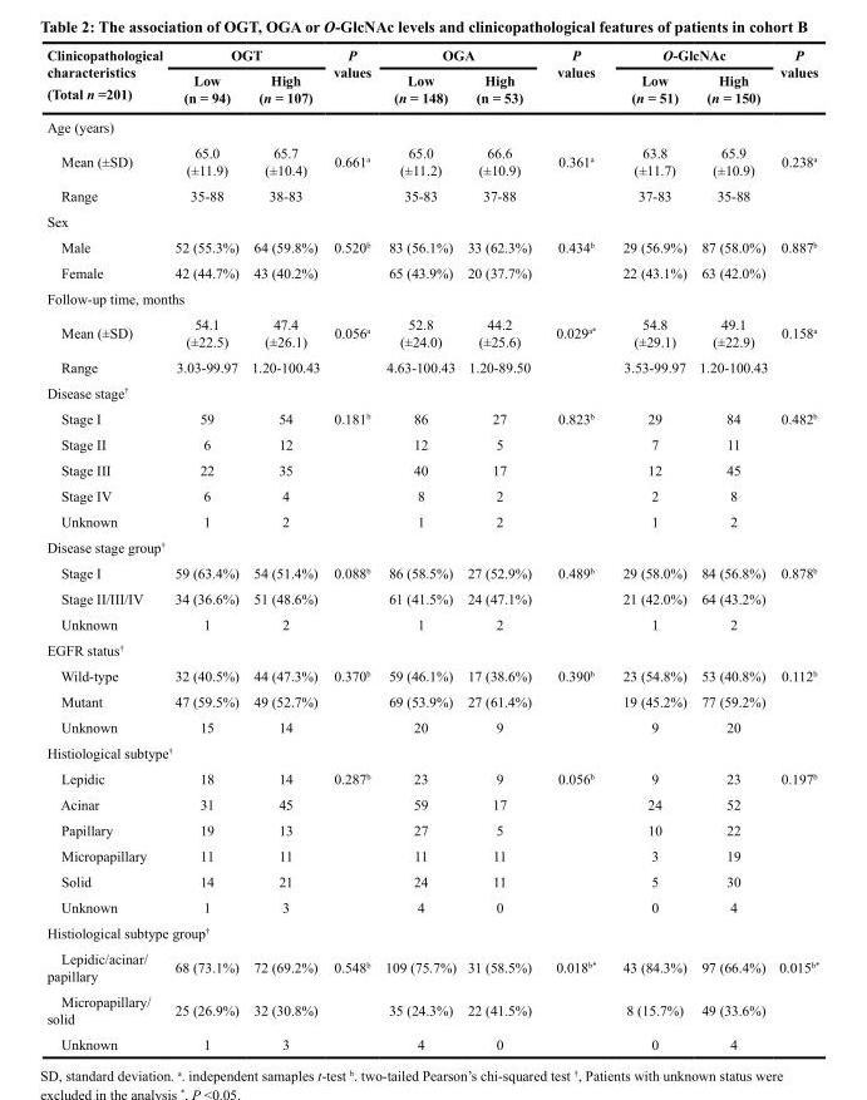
<table><thead><tr><td rowspan="2">Clinicopathological characteristics (Total n =201)</td><td colspan="2">OGT</td><td rowspan="2">P values</td><td colspan="2">OGA</td><td rowspan="2">P values</td><td colspan="2">O-GlcNAc</td><td rowspan="2">P values</td></tr><tr><td>Low (n = 94)</td><td>High (n = 107)</td><td>Low (n = 148)</td><td>High (n = 53)</td><td>Low (n = 51)</td><td>High (n = 150)</td></tr></thead><tbody><tr><td colspan="10">Age (years)</td></tr><tr><td>Mean (±SD)</td><td>65.0 (±11.9)</td><td>65.7 (±10.4)</td><td>0.661<sup>a</sup></td><td>65.0 (±11.2)</td><td>66.6 (±10.9)</td><td>0.361<sup>a</sup></td><td>63.8 (±11.7)</td><td>65.9 (±10.9)</td><td>0.238<sup>a</sup></td></tr><tr><td>Range</td><td>35-88</td><td>38-83</td><td></td><td>35-83</td><td>37-88</td><td></td><td>37-83</td><td>35-88</td><td></td></tr><tr><td colspan="10">Sex</td></tr><tr><td>Male</td><td>52 (55.3%)</td><td>64 (59.8%)</td><td>0.520<sup>b</sup></td><td>83 (56.1%)</td><td>33 (62.3%)</td><td>0.434<sup>b</sup></td><td>29 (56.9%)</td><td>87 (58.0%)</td><td>0.887<sup>b</sup></td></tr><tr><td>Female</td><td>42 (44.7%)</td><td>43 (40.2%)</td><td></td><td>65 (43.9%)</td><td>20 (37.7%)</td><td></td><td>22 (43.1%)</td><td>63 (42.0%)</td><td></td></tr><tr><td colspan="10">Follow-up time, months</td></tr><tr><td>Mean (±SD)</td><td>54.1 (±22.5)</td><td>47.4 (±26.1)</td><td>0.056<sup>a</sup></td><td>52.8 (±24.0)</td><td>44.2 (±25.6)</td><td>0.029<sup>a*</sup></td><td>54.8 (±29.1)</td><td>49.1 (±22.9)</td><td>0.158<sup>a</sup></td></tr><tr><td>Range</td><td>3.03-99.97</td><td>1.20-100.43</td><td></td><td>4.63-100.43</td><td>1.20-89.50</td><td></td><td>3.53-99.97</td><td>1.20-100.43</td><td></td></tr><tr><td colspan="10">Disease stage<sup>†</sup></td></tr><tr><td>Stage I</td><td>59</td><td>54</td><td>0.181<sup>b</sup></td><td>86</td><td>27</td><td>0.823<sup>b</sup></td><td>29</td><td>84</td><td>0.482<sup>b</sup></td></tr><tr><td>Stage II</td><td>6</td><td>12</td><td></td><td>12</td><td>5</td><td></td><td>7</td><td>11</td><td></td></tr><tr><td>Stage III</td><td>22</td><td>35</td><td></td><td>40</td><td>17</td><td></td><td>12</td><td>45</td><td></td></tr><tr><td>Stage IV</td><td>6</td><td>4</td><td></td><td>8</td><td>2</td><td></td><td>2</td><td>8</td><td></td></tr><tr><td>Unknown</td><td>1</td><td>2</td><td></td><td>1</td><td>2</td><td></td><td>1</td><td>2</td><td></td></tr><tr><td colspan="10">Disease stage group<sup>†</sup></td></tr><tr><td>Stage I</td><td>59 (63.4%)</td><td>54 (51.4%)</td><td>0.088<sup>b</sup></td><td>86 (58.5%)</td><td>27 (52.9%)</td><td>0.489<sup>b</sup></td><td>29 (58.0%)</td><td>84 (56.8%)</td><td>0.878<sup>b</sup></td></tr><tr><td>Stage II/III/IV</td><td>34 (36.6%)</td><td>51 (48.6%)</td><td></td><td>61 (41.5%)</td><td>24 (47.1%)</td><td></td><td>21 (42.0%)</td><td>64 (43.2%)</td><td></td></tr><tr><td>Unknown</td><td>1</td><td>2</td><td></td><td>1</td><td>2</td><td></td><td>1</td><td>2</td><td></td></tr><tr><td colspan="10">EGFR status<sup>†</sup></td></tr><tr><td>Wild-type</td><td>32 (40.5%)</td><td>44 (47.3%)</td><td>0.370<sup>b</sup></td><td>59 (46.1%)</td><td>17 (38.6%)</td><td>0.390<sup>b</sup></td><td>23 (54.8%)</td><td>53 (40.8%)</td><td>0.112<sup>b</sup></td></tr><tr><td>Mutant</td><td>47 (59.5%)</td><td>49 (52.7%)</td><td></td><td>69 (53.9%)</td><td>27 (61.4%)</td><td></td><td>19 (45.2%)</td><td>77 (59.2%)</td><td></td></tr><tr><td>Unknown</td><td>15</td><td>14</td><td></td><td>20</td><td>9</td><td></td><td>9</td><td>20</td><td></td></tr><tr><td colspan="10">Histiological subtype<sup>†</sup></td></tr><tr><td>Lepidic</td><td>18</td><td>14</td><td>0.287<sup>b</sup></td><td>23</td><td>9</td><td>0.056<sup>b</sup></td><td>9</td><td>23</td><td>0.197<sup>b</sup></td></tr><tr><td>Acinar</td><td>31</td><td>45</td><td></td><td>59</td><td>17</td><td></td><td>24</td><td>52</td><td></td></tr><tr><td>Papillary</td><td>19</td><td>13</td><td></td><td>27</td><td>5</td><td></td><td>10</td><td>22</td><td></td></tr><tr><td>Micropapillary</td><td>11</td><td>11</td><td></td><td>11</td><td>11</td><td></td><td>3</td><td>19</td><td></td></tr><tr><td>Solid</td><td>14</td><td>21</td><td></td><td>24</td><td>11</td><td></td><td>5</td><td>30</td><td></td></tr><tr><td>Unknown</td><td>1</td><td>3</td><td></td><td>4</td><td>0</td><td></td><td>0</td><td>4</td><td></td></tr><tr><td colspan="10">Histiological subtype group<sup>†</sup></td></tr><tr><td>Lepidic/acinar/ papillary</td><td>68 (73.1%)</td><td>72 (69.2%)</td><td>0.548<sup>b</sup></td><td>109 (75.7%)</td><td>31 (58.5%)</td><td>0.018<sup>b*</sup></td><td>43 (84.3%)</td><td>97 (66.4%)</td><td>0.015<sup>b*</sup></td></tr><tr><td>Micropapillary/ solid</td><td>25 (26.9%)</td><td>32 (30.8%)</td><td></td><td>35 (24.3%)</td><td>22 (41.5%)</td><td></td><td>8 (15.7%)</td><td>49 (33.6%)</td><td></td></tr><tr><td>Unknown</td><td>1</td><td>3</td><td></td><td>4</td><td>0</td><td></td><td>0</td><td>4</td><td></td></tr></tbody></table>